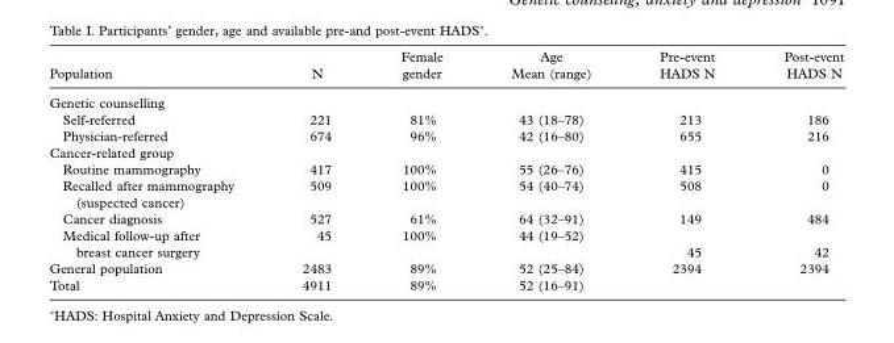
<table><thead><tr><td>Population</td><td>N</td><td>Female gender</td><td>Age Mean (range)</td><td>Pre-event HADS N</td><td>Post-event HADS N</td></tr></thead><tbody><tr><td colspan="6">Genetic counselling</td></tr><tr><td>Self-referred</td><td>221</td><td>81%</td><td>43 (18 – 78)</td><td>213</td><td>186</td></tr><tr><td>Physician-referred</td><td>674</td><td>96%</td><td>42 (16 – 80)</td><td>655</td><td>216</td></tr><tr><td colspan="6">Cancer-related group</td></tr><tr><td>Routine mammography</td><td>417</td><td>100%</td><td>55 (26 – 76)</td><td>415</td><td>0</td></tr><tr><td>Recalled after mammography (suspected cancer)</td><td>509</td><td>100%</td><td>54 (40 – 74)</td><td>508</td><td>0</td></tr><tr><td>Cancer diagnosis</td><td>527</td><td>61%</td><td>64 (32 – 91)</td><td>149</td><td>484</td></tr><tr><td>Medical follow-up after</td><td>45</td><td>100%</td><td>44 (19 – 52)</td><td></td><td></td></tr><tr><td>breast cancer surgery</td><td></td><td></td><td></td><td>45</td><td>42</td></tr><tr><td>General population</td><td>2483</td><td>89%</td><td>52 (25 – 84)</td><td>2394</td><td>2394</td></tr><tr><td>Total</td><td>4911</td><td>89%</td><td>52 (16 – 91)</td><td></td><td></td></tr></tbody></table>